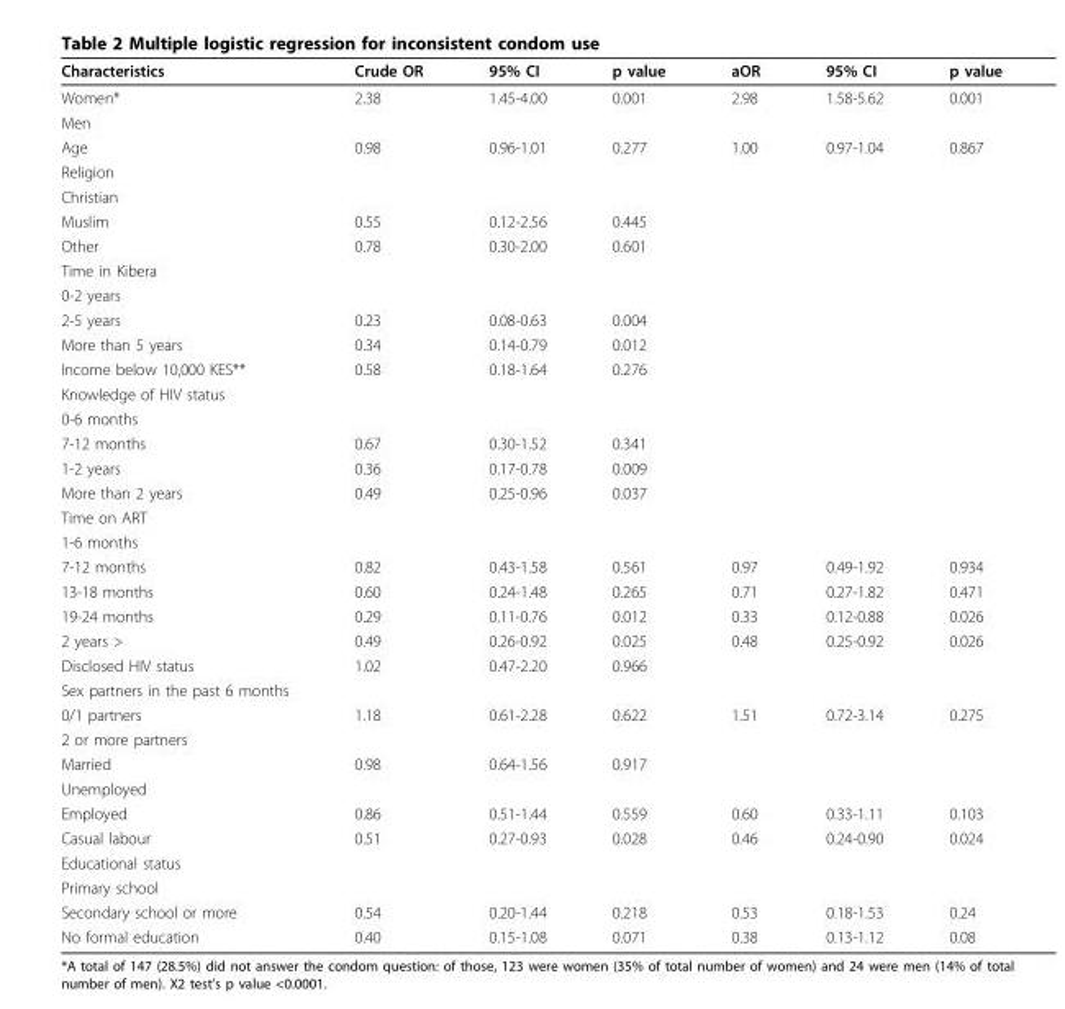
<table><thead><tr><td>Characteristics</td><td>Crude OR</td><td>95% CI</td><td>p value</td><td>aOR</td><td>95% CI</td><td>p value</td></tr></thead><tbody><tr><td>Women*</td><td>2.38</td><td>1.45-4.00</td><td>0.001</td><td>2.98</td><td>1.58-5.62</td><td>0.001</td></tr><tr><td colspan="7">Men</td></tr><tr><td>Age</td><td>0.98</td><td>0.96-1.01</td><td>0.277</td><td>1.00</td><td>0.97-1.04</td><td>0.867</td></tr><tr><td colspan="7">Religion</td></tr><tr><td colspan="7">Christian</td></tr><tr><td>Muslim</td><td>0.55</td><td>0.12-2.56</td><td>0.445</td><td></td><td></td><td></td></tr><tr><td>Other</td><td>0.78</td><td>0.30-2.00</td><td>0.601</td><td></td><td></td><td></td></tr><tr><td colspan="7">Time in Kibera</td></tr><tr><td colspan="7">0-2 years</td></tr><tr><td>2-5 years</td><td>0.23</td><td>0.08-0.63</td><td>0.004</td><td></td><td></td><td></td></tr><tr><td>More than 5 years</td><td>0.34</td><td>0.14-0.79</td><td>0.012</td><td></td><td></td><td></td></tr><tr><td>Income below 10,000 KES**</td><td>0.58</td><td>0.18-1.64</td><td>0.276</td><td></td><td></td><td></td></tr><tr><td colspan="7">Knowledge of HIV status</td></tr><tr><td colspan="7">0-6 months</td></tr><tr><td>7-12 months</td><td>0.67</td><td>0.30-1.52</td><td>0.341</td><td></td><td></td><td></td></tr><tr><td>1-2 years</td><td>0.36</td><td>0.17-0.78</td><td>0.009</td><td></td><td></td><td></td></tr><tr><td>More than 2 years</td><td>0.49</td><td>0.25-0.96</td><td>0.037</td><td></td><td></td><td></td></tr><tr><td colspan="7">Time on ART</td></tr><tr><td colspan="7">1-6 months</td></tr><tr><td>7-12 months</td><td>0.82</td><td>0.43-1.58</td><td>0.561</td><td>0.97</td><td>0.49-1.92</td><td>0.934</td></tr><tr><td>13-18 months</td><td>0.60</td><td>0.24-1.48</td><td>0.265</td><td>0.71</td><td>0.27-1.82</td><td>0.471</td></tr><tr><td>19-24 months</td><td>0.29</td><td>0.11-0.76</td><td>0.012</td><td>0.33</td><td>0.12-0.88</td><td>0.026</td></tr><tr><td>2 years &gt;</td><td>0.49</td><td>0.26-0.92</td><td>0.025</td><td>0.48</td><td>0.25-0.92</td><td>0.026</td></tr><tr><td>Disclosed HIV status</td><td>1.02</td><td>0.47-2.20</td><td>0.966</td><td></td><td></td><td></td></tr><tr><td colspan="7">Sex partners in the past 6 months</td></tr><tr><td>0/1 partners</td><td>1.18</td><td>0.61-2.28</td><td>0.622</td><td>1.51</td><td>0.72-3.14</td><td>0.275</td></tr><tr><td colspan="7">2 or more partners</td></tr><tr><td>Married</td><td>0.98</td><td>0.64-1.56</td><td>0.917</td><td></td><td></td><td></td></tr><tr><td colspan="7">Unemployed</td></tr><tr><td>Employed</td><td>0.86</td><td>0.51-1.44</td><td>0.559</td><td>0.60</td><td>0.33-1.11</td><td>0.103</td></tr><tr><td>Casual labour</td><td>0.51</td><td>0.27-0.93</td><td>0.028</td><td>0.46</td><td>0.24-0.90</td><td>0.024</td></tr><tr><td colspan="7">Educational status</td></tr><tr><td colspan="7">Primary school</td></tr><tr><td>Secondary school or more</td><td>0.54</td><td>0.20-1.44</td><td>0.218</td><td>0.53</td><td>0.18-1.53</td><td>0.24</td></tr><tr><td>No formal education</td><td>0.40</td><td>0.15-1.08</td><td>0.071</td><td>0.38</td><td>0.13-1.12</td><td>0.08</td></tr></tbody></table>